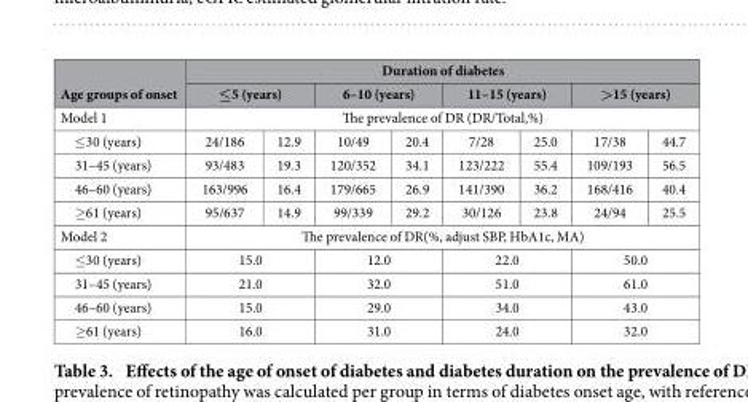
<table><thead><tr><td rowspan="4">Age groups of onset Model 1 ≤ 30 (years)</td><td colspan="8">Duration of diabetes</td></tr><tr><td colspan="2">≤5 (years)</td><td colspan="2">6–10 (years)</td><td colspan="2">11–15 (years)</td><td colspan="2">&gt;15 (years)</td></tr><tr><td colspan="8">The prevalence of DR (DR/Total,%)</td></tr><tr><td>24/186</td><td>12.9</td><td>10/49</td><td>20.4</td><td>7/28</td><td>25.0</td><td>17/38</td><td>44.7</td></tr></thead><tbody><tr><td>31–45 (years)</td><td>93/483</td><td>19.3</td><td>120/352</td><td>34.1</td><td>123/222</td><td>55.4</td><td>109/193</td><td>56.5</td></tr><tr><td>46–60 (years)</td><td>163/996</td><td>16.4</td><td>179/665</td><td>26.9</td><td>141/390</td><td>36.2</td><td>168/416</td><td>40.4</td></tr><tr><td>≥ 61 (years)</td><td>95/637</td><td>14.9</td><td>99/339</td><td>29.2</td><td>30/126</td><td>23.8</td><td>24/94</td><td>25.5</td></tr><tr><td>Model 2</td><td colspan="8">The prevalence of DR(%, adjust SBP, HbA1c, MA)</td></tr><tr><td>≤ 30 (years)</td><td colspan="2">15.0</td><td colspan="2">12.0</td><td colspan="2">22.0</td><td colspan="2">50.0</td></tr><tr><td>31–45 (years)</td><td colspan="2">21.0</td><td colspan="2">32.0</td><td colspan="2">51.0</td><td colspan="2">61.0</td></tr><tr><td>46–60 (years)</td><td colspan="2">15.0</td><td colspan="2">29.0</td><td colspan="2">34.0</td><td colspan="2">43.0</td></tr><tr><td>≥ 61 (years)</td><td colspan="2">16.0</td><td colspan="2">31.0</td><td colspan="2">24.0</td><td colspan="2">32.0</td></tr></tbody></table>